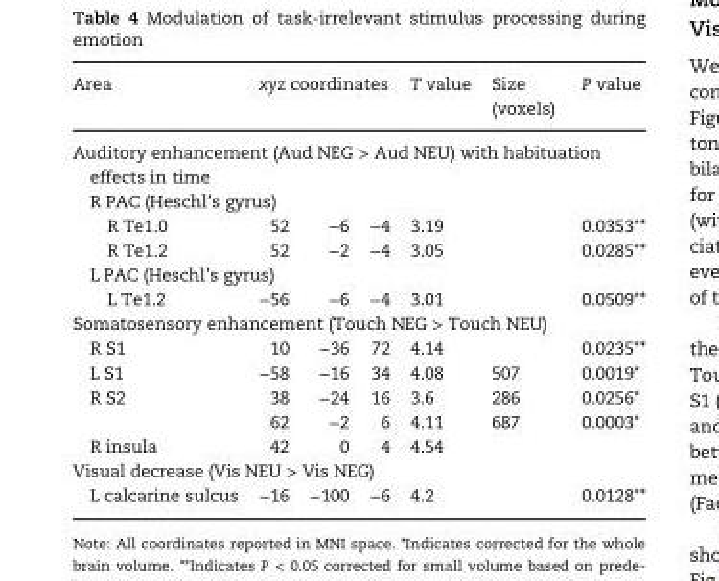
<table><thead><tr><td>Area</td><td colspan="3">xyz coordinates</td><td>T value</td><td>Size (voxels)</td><td>P value</td></tr><tr><td rowspan="2" colspan="7">Auditory enhancement (Aud NEG &gt; Aud NEU) with habituation effects in time R PAC (Heschl’s gyrus)</td></tr><tr></tr><tr><td>R Te1.0</td><td>52</td><td>−6</td><td>−4</td><td>3.19</td><td></td><td>0.0353**</td></tr></thead><tbody><tr><td>R Te1.2</td><td>52</td><td>−2</td><td>−4</td><td>3.05</td><td></td><td>0.0285**</td></tr><tr><td colspan="7">L PAC (Heschl’s gyrus)</td></tr><tr><td>L Te1.2</td><td>−56</td><td>−6</td><td>−4</td><td>3.01</td><td></td><td>0.0509**</td></tr><tr><td colspan="7">Somatosensory enhancement (Touch NEG &gt; Touch NEU)</td></tr><tr><td>R S1</td><td>10</td><td>−36</td><td>72</td><td>4.14</td><td></td><td>0.0235**</td></tr><tr><td>L S1</td><td>−58</td><td>−16</td><td>34</td><td>4.08</td><td>507</td><td>0.0019*</td></tr><tr><td rowspan="2">R S2</td><td>38</td><td>−24</td><td>16</td><td>3.6</td><td>286</td><td>0.0256*</td></tr><tr><td>62</td><td>−2</td><td>6</td><td>4.11</td><td>687</td><td>0.0003*</td></tr><tr><td>R insula</td><td>42</td><td>0</td><td>4</td><td>4.54</td><td></td><td></td></tr><tr><td colspan="7">Visual decrease (Vis NEU &gt; Vis NEG)</td></tr><tr><td>L calcarine sulcus</td><td>−16</td><td>−100</td><td>−6</td><td>4.2</td><td></td><td>0.0128**</td></tr></tbody></table>